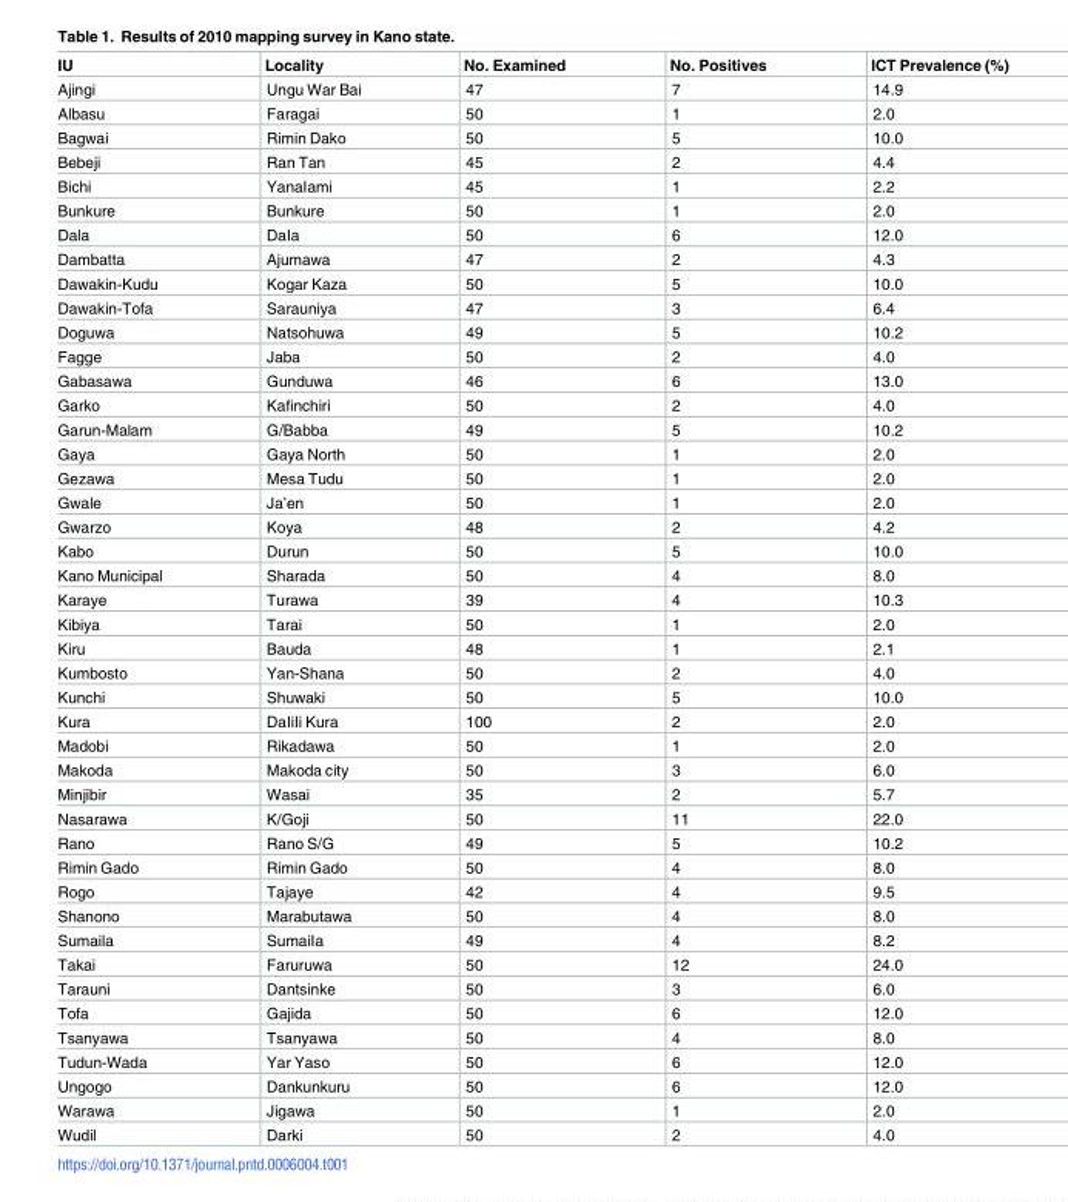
<table><thead><tr><td>IU</td><td>Locality</td><td>No. Examined</td><td>No. Positives</td><td>ICT Prevalence (%)</td></tr></thead><tbody><tr><td>Ajingi</td><td>Ungu War Bai</td><td>47</td><td>7</td><td>14.9</td></tr><tr><td>Albasu</td><td>Faragai</td><td>50</td><td>1</td><td>2.0</td></tr><tr><td>Bagwai</td><td>Rimin Dako</td><td>50</td><td>5</td><td>10.0</td></tr><tr><td>Bebeji</td><td>Ran Tan</td><td>45</td><td>2</td><td>4.4</td></tr><tr><td>Bichi</td><td>YanaIami</td><td>45</td><td>1</td><td>2.2</td></tr><tr><td>Bunkure</td><td>Bunkure</td><td>50</td><td>1</td><td>2.0</td></tr><tr><td>Dala</td><td>DaIa</td><td>50</td><td>6</td><td>12.0</td></tr><tr><td>Dambatta</td><td>Ajumawa</td><td>47</td><td>2</td><td>4.3</td></tr><tr><td>Dawakin-Kudu</td><td>Kogar Kaza</td><td>50</td><td>5</td><td>10.0</td></tr><tr><td>Dawakin-Tofa</td><td>Sarauniya</td><td>47</td><td>3</td><td>6.4</td></tr><tr><td>Doguwa</td><td>Natsohuwa</td><td>49</td><td>5</td><td>10.2</td></tr><tr><td>Fagge</td><td>Jaba</td><td>50</td><td>2</td><td>4.0</td></tr><tr><td>Gabasawa</td><td>Gunduwa</td><td>46</td><td>6</td><td>13.0</td></tr><tr><td>Garko</td><td>Kafinchiri</td><td>50</td><td>2</td><td>4.0</td></tr><tr><td>Garun-Malam</td><td>G/Babba</td><td>49</td><td>5</td><td>10.2</td></tr><tr><td>Gaya</td><td>Gaya North</td><td>50</td><td>1</td><td>2.0</td></tr><tr><td>Gezawa</td><td>Mesa Tudu</td><td>50</td><td>1</td><td>2.0</td></tr><tr><td>Gwale</td><td>Ja’en</td><td>50</td><td>1</td><td>2.0</td></tr><tr><td>Gwarzo</td><td>Koya</td><td>48</td><td>2</td><td>4.2</td></tr><tr><td>Kabo</td><td>Durun</td><td>50</td><td>5</td><td>10.0</td></tr><tr><td>Kano Municipal</td><td>Sharada</td><td>50</td><td>4</td><td>8.0</td></tr><tr><td>Karaye</td><td>Turawa</td><td>39</td><td>4</td><td>10.3</td></tr><tr><td>Kibiya</td><td>Tarai</td><td>50</td><td>1</td><td>2.0</td></tr><tr><td>Kiru</td><td>Bauda</td><td>48</td><td>1</td><td>2.1</td></tr><tr><td>Kumbosto</td><td>Yan-Shana</td><td>50</td><td>2</td><td>4.0</td></tr><tr><td>Kunchi</td><td>Shuwaki</td><td>50</td><td>5</td><td>10.0</td></tr><tr><td>Kura</td><td>DaIiIi Kura</td><td>100</td><td>2</td><td>2.0</td></tr><tr><td>Madobi</td><td>Rikadawa</td><td>50</td><td>1</td><td>2.0</td></tr><tr><td>Makoda</td><td>Makoda city</td><td>50</td><td>3</td><td>6.0</td></tr><tr><td>Minjibir</td><td>Wasai</td><td>35</td><td>2</td><td>5.7</td></tr><tr><td>Nasarawa</td><td>K/Goji</td><td>50</td><td>11</td><td>22.0</td></tr><tr><td>Rano</td><td>Rano S/G</td><td>49</td><td>5</td><td>10.2</td></tr><tr><td>Rimin Gado</td><td>Rimin Gado</td><td>50</td><td>4</td><td>8.0</td></tr><tr><td>Rogo</td><td>Tajaye</td><td>42</td><td>4</td><td>9.5</td></tr><tr><td>Shanono</td><td>Marabutawa</td><td>50</td><td>4</td><td>8.0</td></tr><tr><td>Sumaila</td><td>SumaiIa</td><td>49</td><td>4</td><td>8.2</td></tr><tr><td>Takai</td><td>Faruruwa</td><td>50</td><td>12</td><td>24.0</td></tr><tr><td>Tarauni</td><td>Dantsinke</td><td>50</td><td>3</td><td>6.0</td></tr><tr><td>Tofa</td><td>Gajida</td><td>50</td><td>6</td><td>12.0</td></tr><tr><td>Tsanyawa</td><td>Tsanyawa</td><td>50</td><td>4</td><td>8.0</td></tr><tr><td>Tudun-Wada</td><td>Yar Yaso</td><td>50</td><td>6</td><td>12.0</td></tr><tr><td>Ungogo</td><td>Dankunkuru</td><td>50</td><td>6</td><td>12.0</td></tr><tr><td>Warawa</td><td>Jigawa</td><td>50</td><td>1</td><td>2.0</td></tr><tr><td>Wudil</td><td>Darki</td><td>50</td><td>2</td><td>4.0</td></tr></tbody></table>